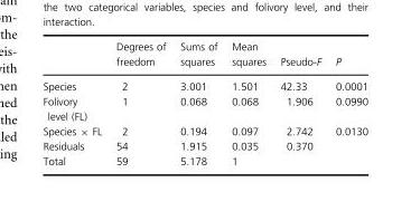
<table><thead><tr><td></td><td>Degrees of freedom</td><td>Sums of squares</td><td>Mean squares</td><td>Pseudo-F</td><td>P</td></tr></thead><tbody><tr><td>Species</td><td>2</td><td>3.001</td><td>1.501</td><td>42.33</td><td>0.0001</td></tr><tr><td>Folivory level (FL)</td><td>1</td><td>0.068</td><td>0.068</td><td>1.906</td><td>0.0990</td></tr><tr><td>Species × FL</td><td>2</td><td>0.194</td><td>0.097</td><td>2.742</td><td>0.0130</td></tr><tr><td>Residuals</td><td>54</td><td>1.915</td><td>0.035</td><td>0.370</td><td></td></tr><tr><td>Total</td><td>59</td><td>5.178</td><td>1</td><td></td><td></td></tr></tbody></table>